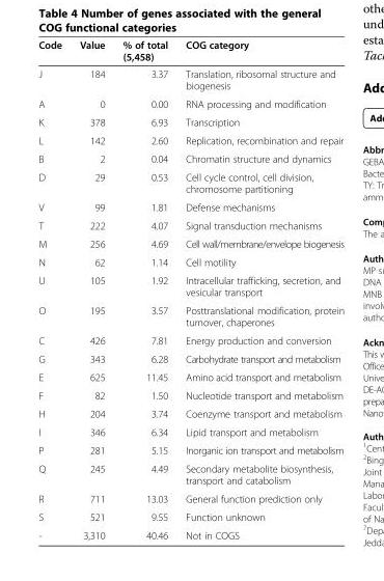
<table><thead><tr><td>Code</td><td>Value</td><td>% of total (5,458)</td><td>COG category</td></tr></thead><tbody><tr><td>J</td><td>184</td><td>3.37</td><td>Translation, ribosomal structure and biogenesis</td></tr><tr><td>A</td><td>0</td><td>0.00</td><td>RNA processing and modification</td></tr><tr><td>K</td><td>378</td><td>6.93</td><td>Transcription</td></tr><tr><td>L</td><td>142</td><td>2.60</td><td>Replication, recombination and repair</td></tr><tr><td>B</td><td>2</td><td>0.04</td><td>Chromatin structure and dynamics</td></tr><tr><td>D</td><td>29</td><td>0.53</td><td>Cell cycle control, cell division, chromosome partitioning</td></tr><tr><td>V</td><td>99</td><td>1.81</td><td>Defense mechanisms</td></tr><tr><td>T</td><td>222</td><td>4.07</td><td>Signal transduction mechanisms</td></tr><tr><td>M</td><td>256</td><td>4.69</td><td>Cell wall/membrane/envelope biogenesis</td></tr><tr><td>N</td><td>62</td><td>1.14</td><td>Cell motility</td></tr><tr><td>U</td><td>105</td><td>1.92</td><td>Intracellular trafficking, secretion, and vesicular transport</td></tr><tr><td>O</td><td>195</td><td>3.57</td><td>Posttranslational modification, protein turnover, chaperones</td></tr><tr><td>C</td><td>426</td><td>7.81</td><td>Energy production and conversion</td></tr><tr><td>G</td><td>343</td><td>6.28</td><td>Carbohydrate transport and metabolism</td></tr><tr><td>E</td><td>625</td><td>11.45</td><td>Amino acid transport and metabolism</td></tr><tr><td>F</td><td>82</td><td>1.50</td><td>Nucleotide transport and metabolism</td></tr><tr><td>H</td><td>204</td><td>3.74</td><td>Coenzyme transport and metabolism</td></tr><tr><td>I</td><td>346</td><td>6.34</td><td>Lipid transport and metabolism</td></tr><tr><td>P</td><td>281</td><td>5.15</td><td>Inorganic ion transport and metabolism</td></tr><tr><td>Q</td><td>245</td><td>4.49</td><td>Secondary metabolite biosynthesis, transport and catabolism</td></tr><tr><td>R</td><td>711</td><td>13.03</td><td>General function prediction only</td></tr><tr><td>S</td><td>521</td><td>9.55</td><td>Function unknown</td></tr><tr><td>-</td><td>3,310</td><td>40.46</td><td>Not in COGS</td></tr></tbody></table>